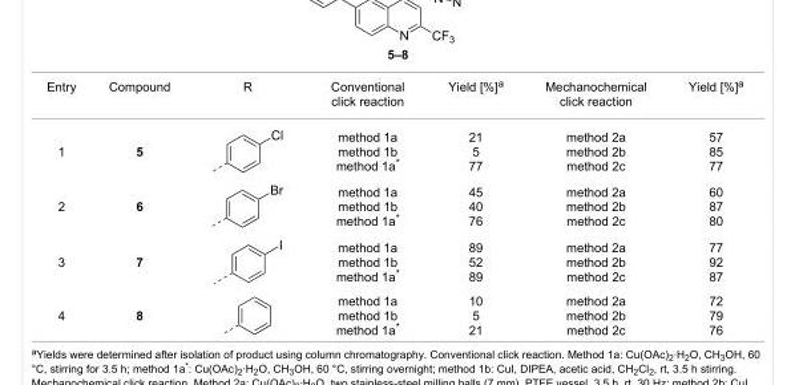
<table><tbody><tr><td colspan="7">5–8</td></tr><tr><td>Entry</td><td>Compound</td><td>R</td><td>Conventional click reaction</td><td>Yield [%]<sup>a</sup></td><td>Mechanochemical click reaction</td><td>Yield [%]<sup>a</sup></td></tr><tr><td>1</td><td>5</td><td></td><td>method 1a method 1b method 1a*</td><td>21 5 77</td><td>method 2a method 2b method 2c</td><td>57 85 77</td></tr><tr><td>2</td><td>6</td><td></td><td>method 1a method 1b method 1a*</td><td>45 40 76</td><td>method 2a method 2b method 2c</td><td>60 87 80</td></tr><tr><td>3</td><td>7</td><td></td><td>method 1a method 1b method 1a*</td><td>89 52 89</td><td>method 2a method 2b method 2c</td><td>77 92 87</td></tr><tr><td>4</td><td>8</td><td></td><td>method 1a method 1b method 1a*</td><td>10 5 21</td><td>method 2a method 2b method 2c</td><td>72 79 76</td></tr></tbody></table>